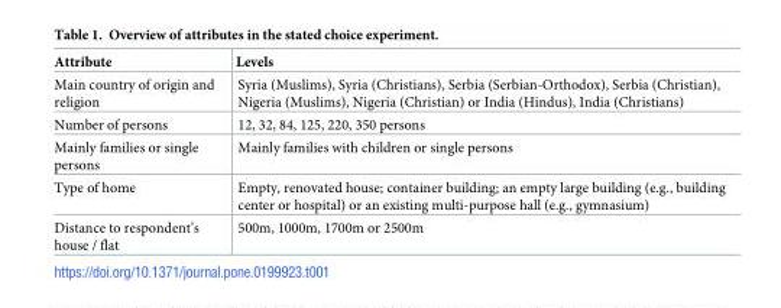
<table><thead><tr><td>Attribute</td><td>Levels</td></tr></thead><tbody><tr><td>Main country of origin and religion</td><td>Syria (Muslims), Syria (Christians), Serbia (Serbian-Orthodox), Serbia (Christian), Nigeria (Muslims), Nigeria (Christian) or India (Hindus), India (Christians)</td></tr><tr><td>Number of persons</td><td>12, 32, 84, 125, 220, 350 persons</td></tr><tr><td>Mainly families or single persons</td><td>Mainly families with children or single persons</td></tr><tr><td>Type of home</td><td>Empty, renovated house; container building; an empty large building (e.g., building center or hospital) or an existing multi-purpose hall (e.g., gymnasium)</td></tr><tr><td>Distance to respondent’s house / flat</td><td>500m, 1000m, 1700m or 2500m</td></tr></tbody></table>